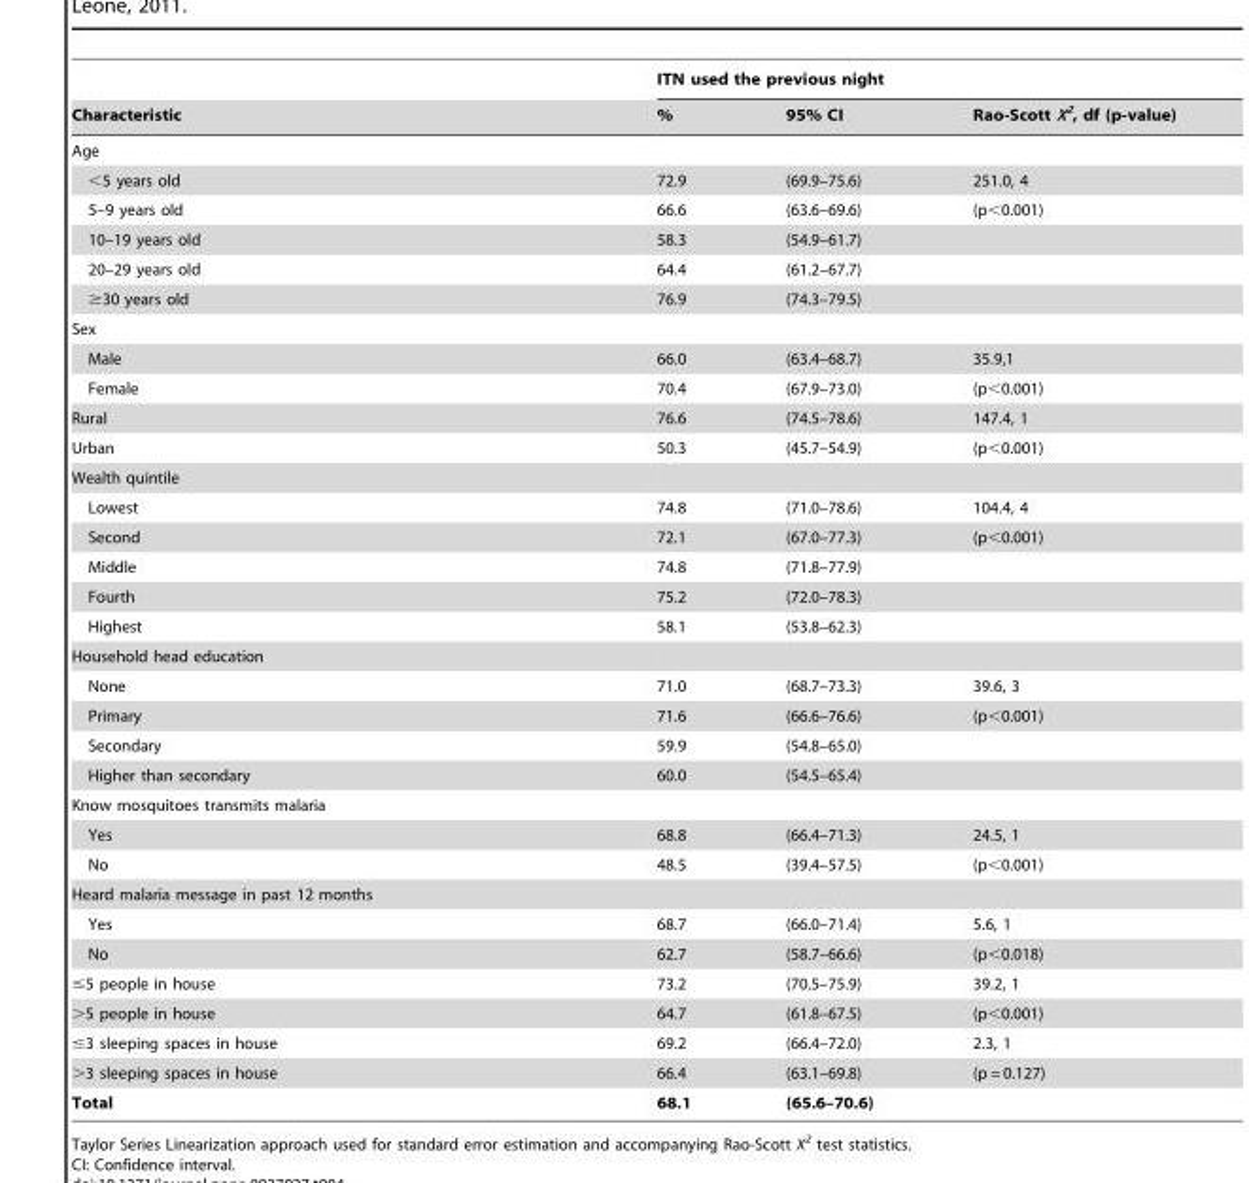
<table><thead><tr><td rowspan="2">Characteristic</td><td colspan="3">ITN used the previous night</td></tr><tr><td>%</td><td>95% CI</td><td>Rao-Scott X<sup>2</sup>, df (p-value)</td></tr></thead><tbody><tr><td colspan="4">Age</td></tr><tr><td>&lt;5 years old</td><td>72.9</td><td>(69.9–75.6)</td><td>251.0, 4</td></tr><tr><td>5–9 years old</td><td>66.6</td><td>(63.6–69.6)</td><td>(p&lt;0.001)</td></tr><tr><td>10–19 years old</td><td>58.3</td><td>(54.9–61.7)</td><td></td></tr><tr><td>20–29 years old</td><td>64.4</td><td>(61.2–67.7)</td><td></td></tr><tr><td>≥30 years old</td><td>76.9</td><td>(74.3–79.5)</td><td></td></tr><tr><td colspan="4">Sex</td></tr><tr><td>Male</td><td>66.0</td><td>(63.4–68.7)</td><td>35.9,1</td></tr><tr><td>Female</td><td>70.4</td><td>(67.9–73.0)</td><td>(p&lt;0.001)</td></tr><tr><td>Rural</td><td>76.6</td><td>(74.5–78.6)</td><td>147.4, 1</td></tr><tr><td>Urban</td><td>50.3</td><td>(45.7–54.9)</td><td>(p&lt;0.001)</td></tr><tr><td colspan="4">Wealth quintile</td></tr><tr><td>Lowest</td><td>74.8</td><td>(71.0–78.6)</td><td>104.4, 4</td></tr><tr><td>Second</td><td>72.1</td><td>(67.0–77.3)</td><td>(p&lt;0.001)</td></tr><tr><td>Middle</td><td>74.8</td><td>(71.8–77.9)</td><td></td></tr><tr><td>Fourth</td><td>75.2</td><td>(72.0–78.3)</td><td></td></tr><tr><td>Highest</td><td>58.1</td><td>(53.8–62.3)</td><td></td></tr><tr><td colspan="4">Household head education</td></tr><tr><td>None</td><td>71.0</td><td>(68.7–73.3)</td><td>39.6, 3</td></tr><tr><td>Primary</td><td>71.6</td><td>(66.6–76.6)</td><td>(p&lt;0.001)</td></tr><tr><td>Secondary</td><td>59.9</td><td>(54.8–65.0)</td><td></td></tr><tr><td>Higher than secondary</td><td>60.0</td><td>(54.5–65.4)</td><td></td></tr><tr><td colspan="4">Know mosquitoes transmits malaria</td></tr><tr><td>Yes</td><td>68.8</td><td>(66.4–71.3)</td><td>24.5, 1</td></tr><tr><td>No</td><td>48.5</td><td>(39.4–57.5)</td><td>(p&lt;0.001)</td></tr><tr><td colspan="4">Heard malaria message in past 12 months</td></tr><tr><td>Yes</td><td>68.7</td><td>(66.0–71.4)</td><td>5.6, 1</td></tr><tr><td>No</td><td>62.7</td><td>(58.7–66.6)</td><td>(p&lt;0.018)</td></tr><tr><td>≤5 people in house</td><td>73.2</td><td>(70.5–75.9)</td><td>39.2, 1</td></tr><tr><td>&gt;5 people in house</td><td>64.7</td><td>(61.8–67.5)</td><td>(p&lt;0.001)</td></tr><tr><td>≤3 sleeping spaces in house</td><td>69.2</td><td>(66.4–72.0)</td><td>2.3, 1</td></tr><tr><td>&gt;3 sleeping spaces in house</td><td>66.4</td><td>(63.1–69.8)</td><td>(p = 0.127)</td></tr><tr><td>Total</td><td>68.1</td><td>(65.6–70.6)</td><td></td></tr></tbody></table>